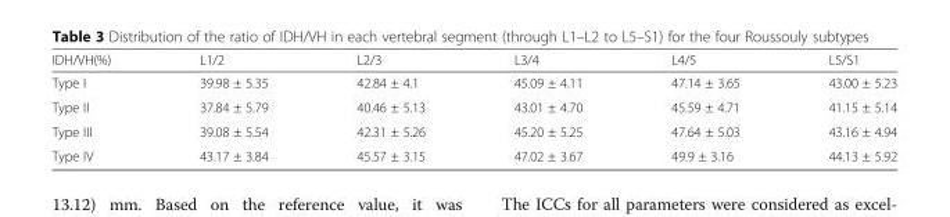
<table><thead><tr><td>IDH/VH(%)</td><td>L1/2</td><td>L2/3</td><td>L3/4</td><td>L4/5</td><td>L5/S1</td></tr></thead><tbody><tr><td>Type I</td><td>39.98 ± 5.35</td><td>42.84 ± 4.1</td><td>45.09 ± 4.11</td><td>47.14 ± 3.65</td><td>43.00 ± 5.23</td></tr><tr><td>Type II</td><td>37.84 ± 5.79</td><td>40.46 ± 5.13</td><td>43.01 ± 4.70</td><td>45.59 ± 4.71</td><td>41.15 ± 5.14</td></tr><tr><td>Type III</td><td>39.08 ± 5.54</td><td>42.31 ± 5.26</td><td>45.20 ± 5.25</td><td>47.64 ± 5.03</td><td>43.16 ± 4.94</td></tr><tr><td>Type IV</td><td>43.17 ± 3.84</td><td>45.57 ± 3.15</td><td>47.02 ± 3.67</td><td>49.9 ± 3.16</td><td>44.13 ± 5.92</td></tr></tbody></table>